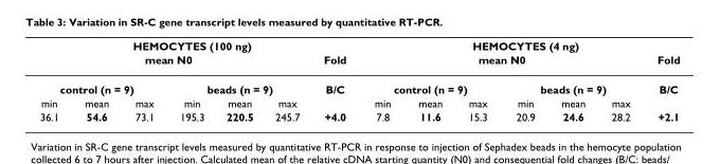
<table><thead><tr><td colspan="7">HEMOCYTES (100 ng)</td><td colspan="7">HEMOCYTES (4 ng)</td></tr><tr><td colspan="6">mean N0</td><td rowspan="3">Fold B/C</td><td colspan="6">mean N0</td><td rowspan="3">Fold B/C</td></tr><tr><td colspan="3">control (n = 9)</td><td colspan="3">beads (n = 9)</td><td colspan="3">control (n = 9)</td><td colspan="3">beads (n = 9)</td></tr><tr><td>min</td><td>mean</td><td>max</td><td>min</td><td>mean</td><td>max</td><td>min</td><td>mean</td><td>max</td><td>min</td><td>mean</td><td>max</td></tr></thead><tbody><tr><td>36.1</td><td>54.6</td><td>73.1</td><td>195.3</td><td>220.5</td><td>245.7</td><td>+4.0</td><td>7.8</td><td>11.6</td><td>15.3</td><td>20.9</td><td>24.6</td><td>28.2</td><td>+2.1</td></tr></tbody></table>